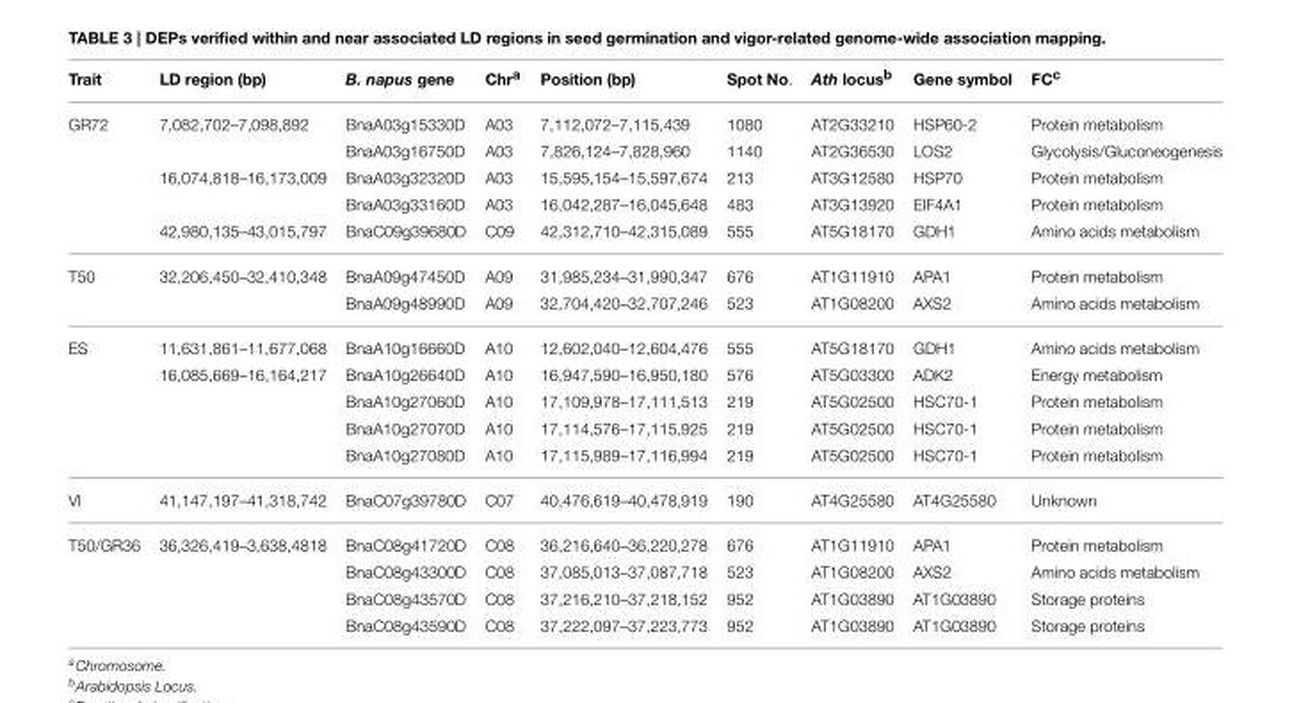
<table><thead><tr><td>Trait</td><td>LD region (bp)</td><td>B. napus gene</td><td>Chr<sup>a</sup></td><td>Position (bp)</td><td>Spot No.</td><td>Ath locus<sup>b</sup></td><td>Gene symbol</td><td>FC<sup>c</sup></td></tr></thead><tbody><tr><td rowspan="5">GR72</td><td>7,082,702–7,098,892</td><td>BnaA03g15330D</td><td>A03</td><td>7,112,072–7,115,439</td><td>1080</td><td>AT2G33210</td><td>HSP60-2</td><td>Protein metabolism</td></tr><tr><td></td><td>BnaA03g16750D</td><td>A03</td><td>7,826,124–7,828,960</td><td>1140</td><td>AT2G36530</td><td>LOS2</td><td>Glycolysis/Gluconeogenesis</td></tr><tr><td>16,074,818–16,173,009</td><td>BnaA03g32320D</td><td>A03</td><td>15,595,154–15,597,674</td><td>213</td><td>AT3G12580</td><td>HSP70</td><td>Protein metabolism</td></tr><tr><td></td><td>BnaA03g33160D</td><td>A03</td><td>16,042,287–16,045,648</td><td>483</td><td>AT3G13920</td><td>EIF4A1</td><td>Protein metabolism</td></tr><tr><td>42,980,135–43,015,797</td><td>BnaC09g39680D</td><td>C09</td><td>42,312,710–42,315,089</td><td>555</td><td>AT5G18170</td><td>GDH1</td><td>Amino acids metabolism</td></tr><tr><td rowspan="2">T50</td><td>32,206,450–32,410,348</td><td>BnaA09g47450D</td><td>A09</td><td>31,985,234–31,990,347</td><td>676</td><td>AT1G11910</td><td>APA1</td><td>Protein metabolism</td></tr><tr><td></td><td>BnaA09g48990D</td><td>A09</td><td>32,704,420–32,707,246</td><td>523</td><td>AT1G08200</td><td>AXS2</td><td>Amino acids metabolism</td></tr><tr><td rowspan="5">ES</td><td>11,631,861–11,677,068</td><td>BnaA10g16660D</td><td>A10</td><td>12,602,040–12,604,476</td><td>555</td><td>AT5G18170</td><td>GDH1</td><td>Amino acids metabolism</td></tr><tr><td>16,085,669–16,164,217</td><td>BnaA10g26640D</td><td>A10</td><td>16,947,590–16,950,180</td><td>576</td><td>AT5G03300</td><td>ADK2</td><td>Energy metabolism</td></tr><tr><td></td><td>BnaA10g27060D</td><td>A10</td><td>17,109,978–17,111,513</td><td>219</td><td>AT5G02500</td><td>HSC70-1</td><td>Protein metabolism</td></tr><tr><td></td><td>BnaA10g27070D</td><td>A10</td><td>17,114,576–17,115,925</td><td>219</td><td>AT5G02500</td><td>HSC70-1</td><td>Protein metabolism</td></tr><tr><td></td><td>BnaA10g27080D</td><td>A10</td><td>17,115,989–17,116,994</td><td>219</td><td>AT5G02500</td><td>HSC70-1</td><td>Protein metabolism</td></tr><tr><td>VI</td><td>41,147,197–41,318,742</td><td>BnaC07g39780D</td><td>C07</td><td>40,476,619–40,478,919</td><td>190</td><td>AT4G25580</td><td>AT4G25580</td><td>Unknown</td></tr><tr><td rowspan="4">T50/GR36</td><td>36,326,419–3,638,4818</td><td>BnaC08g41720D</td><td>C08</td><td>36,216,640–36,220,278</td><td>676</td><td>AT1G11910</td><td>APA1</td><td>Protein metabolism</td></tr><tr><td></td><td>BnaC08g43300D</td><td>C08</td><td>37,085,013–37,087,718</td><td>523</td><td>AT1G08200</td><td>AXS2</td><td>Amino acids metabolism</td></tr><tr><td></td><td>BnaC08g43570D</td><td>C08</td><td>37,216,210–37,218,152</td><td>952</td><td>AT1G03890</td><td>AT1G03890</td><td>Storage proteins</td></tr><tr><td></td><td>BnaC08g43590D</td><td>C08</td><td>37,222,097–37,223,773</td><td>952</td><td>AT1G03890</td><td>AT1G03890</td><td>Storage proteins</td></tr></tbody></table>